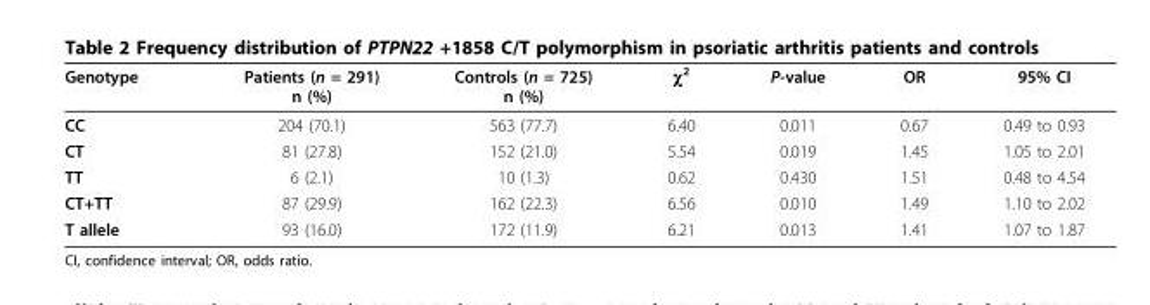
<table><thead><tr><td>Genotype</td><td>Patients (n = 291) n (%)</td><td>Controls (n = 725) n (%)</td><td>χ<sup>2</sup></td><td>P-value</td><td>OR</td><td>95% CI</td></tr></thead><tbody><tr><td>CC</td><td>204 (70.1)</td><td>563 (77.7)</td><td>6.40</td><td>0.011</td><td>0.67</td><td>0.49 to 0.93</td></tr><tr><td>CT</td><td>81 (27.8)</td><td>152 (21.0)</td><td>5.54</td><td>0.019</td><td>1.45</td><td>1.05 to 2.01</td></tr><tr><td>TT</td><td>6 (2.1)</td><td>10 (1.3)</td><td>0.62</td><td>0.430</td><td>1.51</td><td>0.48 to 4.54</td></tr><tr><td>CT+TT</td><td>87 (29.9)</td><td>162 (22.3)</td><td>6.56</td><td>0.010</td><td>1.49</td><td>1.10 to 2.02</td></tr><tr><td>T allele</td><td>93 (16.0)</td><td>172 (11.9)</td><td>6.21</td><td>0.013</td><td>1.41</td><td>1.07 to 1.87</td></tr></tbody></table>